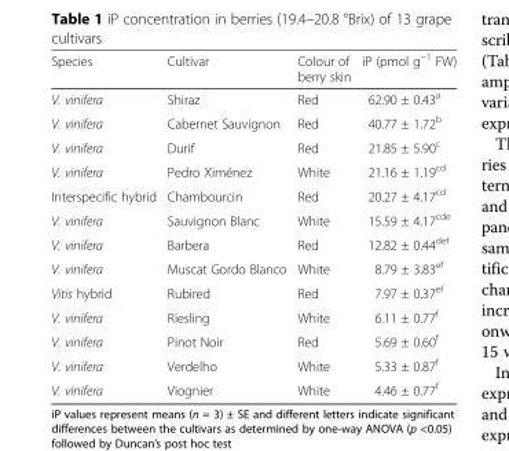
<table><thead><tr><td>Species</td><td>Cultivar</td><td>Colour of berry skin</td><td>iP (pmol g<sup>−1</sup> FW)</td></tr></thead><tbody><tr><td>V. vinifera</td><td>Shiraz</td><td>Red</td><td>62.90 ± 0.43<sup>a</sup></td></tr><tr><td>V. vinifera</td><td>Cabernet Sauvignon</td><td>Red</td><td>40.77 ± 1.72<sup>b</sup></td></tr><tr><td>V. vinifera</td><td>Durif</td><td>Red</td><td>21.85 ± 5.90<sup>c</sup></td></tr><tr><td>V. vinifera</td><td>Pedro Ximénez</td><td>White</td><td>21.16 ± 1.19<sup>cd</sup></td></tr><tr><td>Interspecific hybrid</td><td>Chambourcin</td><td>Red</td><td>20.27 ± 4.17<sup>cd</sup></td></tr><tr><td>V. vinifera</td><td>Sauvignon Blanc</td><td>White</td><td>15.59 ± 4.17<sup>cde</sup></td></tr><tr><td>V. vinifera</td><td>Barbera</td><td>Red</td><td>12.82 ± 0.44<sup>def</sup></td></tr><tr><td>V. vinifera</td><td>Muscat Gordo Blanco</td><td>White</td><td>8.79 ± 3.83<sup>ef</sup></td></tr><tr><td>Vitis hybrid</td><td>Rubired</td><td>Red</td><td>7.97 ± 0.37<sup>ef</sup></td></tr><tr><td>V. vinifera</td><td>Riesling</td><td>White</td><td>6.11 ± 0.77<sup>f</sup></td></tr><tr><td>V. vinifera</td><td>Pinot Noir</td><td>Red</td><td>5.69 ± 0.60<sup>f</sup></td></tr><tr><td>V. vinifera</td><td>Verdelho</td><td>White</td><td>5.33 ± 0.87<sup>f</sup></td></tr><tr><td>V. vinifera</td><td>Viognier</td><td>White</td><td>4.46 ± 0.77<sup>f</sup></td></tr></tbody></table>